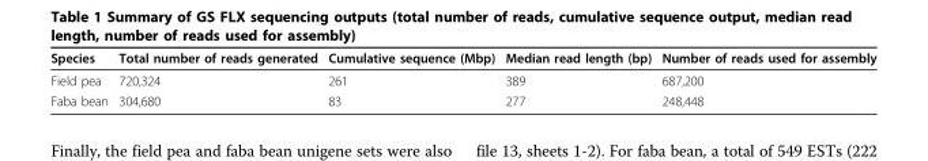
<table><thead><tr><td>Species</td><td>Total number of reads generated</td><td>Cumulative sequence (Mbp)</td><td>Median read length (bp)</td><td>Number of reads used for assembly</td></tr></thead><tbody><tr><td>Field pea</td><td>720,324</td><td>261</td><td>389</td><td>687,200</td></tr><tr><td>Faba bean</td><td>304,680</td><td>83</td><td>277</td><td>248,448</td></tr></tbody></table>